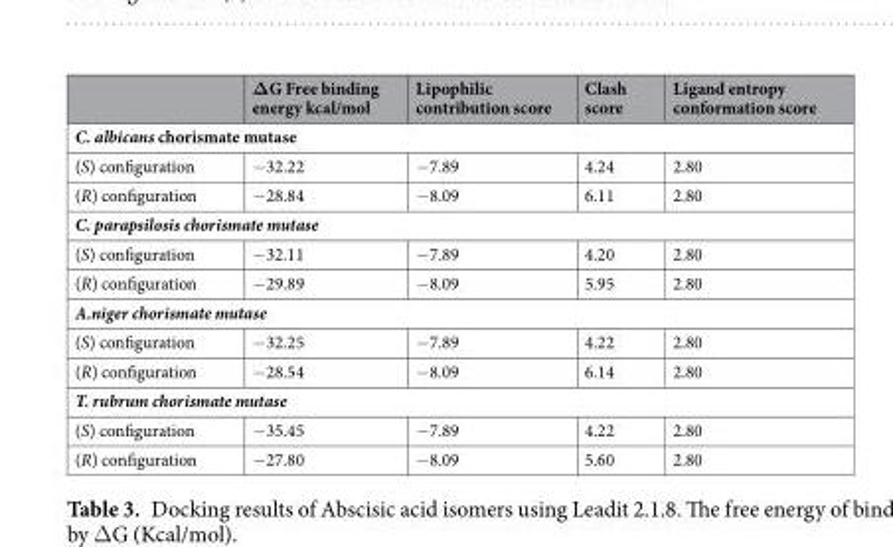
<table><thead><tr><td></td><td>ΔG Free binding energy kcal/mol</td><td>Lipophilic contribution score</td><td>Clash score</td><td>Ligand entropy conformation score</td></tr></thead><tbody><tr><td colspan="5">C. albicans chorismate mutase</td></tr><tr><td>(S) configuration</td><td>−32.22</td><td>−7.89</td><td>4.24</td><td>2.80</td></tr><tr><td>(R) configuration</td><td>−28.84</td><td>−8.09</td><td>6.11</td><td>2.80</td></tr><tr><td colspan="5">C. parapsilosis chorismate mutase</td></tr><tr><td>(S) configuration</td><td>−32.11</td><td>−7.89</td><td>4.20</td><td>2.80</td></tr><tr><td>(R) configuration</td><td>−29.89</td><td>−8.09</td><td>5.95</td><td>2.80</td></tr><tr><td colspan="5">A.niger chorismate mutase</td></tr><tr><td>(S) configuration</td><td>−32.25</td><td>−7.89</td><td>4.22</td><td>2.80</td></tr><tr><td>(R) configuration</td><td>−28.54</td><td>−8.09</td><td>6.14</td><td>2.80</td></tr><tr><td colspan="5">T. rubrum chorismate mutase</td></tr><tr><td>(S) configuration</td><td>−35.45</td><td>−7.89</td><td>4.22</td><td>2.80</td></tr><tr><td>(R) configuration</td><td>−27.80</td><td>−8.09</td><td>5.60</td><td>2.80</td></tr></tbody></table>